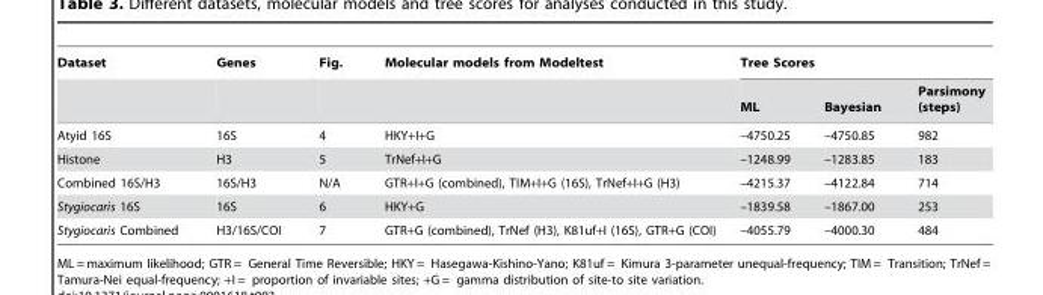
<table><thead><tr><td rowspan="2">Dataset</td><td rowspan="2">Genes</td><td rowspan="2">Fig.</td><td rowspan="2">Molecular models from Modeltest</td><td colspan="3">Tree Scores</td></tr><tr><td>ML</td><td>Bayesian</td><td>Parsimony (steps)</td></tr></thead><tbody><tr><td>Atyid 16S</td><td>16S</td><td>4</td><td>HKY+I+G</td><td>–4750.25</td><td>–4750.85</td><td>982</td></tr><tr><td>Histone</td><td>H3</td><td>5</td><td>TrNef+I+G</td><td>–1248.99</td><td>–1283.85</td><td>183</td></tr><tr><td>Combined 16S/H3</td><td>16S/H3</td><td>N/A</td><td>GTR+I+G (combined), TIM+I+G (16S), TrNef+I+G (H3)</td><td>–4215.37</td><td>–4122.84</td><td>714</td></tr><tr><td>Stygiocaris 16S</td><td>16S</td><td>6</td><td>HKY+G</td><td>–1839.58</td><td>–1867.00</td><td>253</td></tr><tr><td>Stygiocaris Combined</td><td>H3/16S/COI</td><td>7</td><td>GTR+G (combined), TrNef (H3), K81uf+I (16S), GTR+G (COI)</td><td>–4055.79</td><td>–4000.30</td><td>484</td></tr></tbody></table>